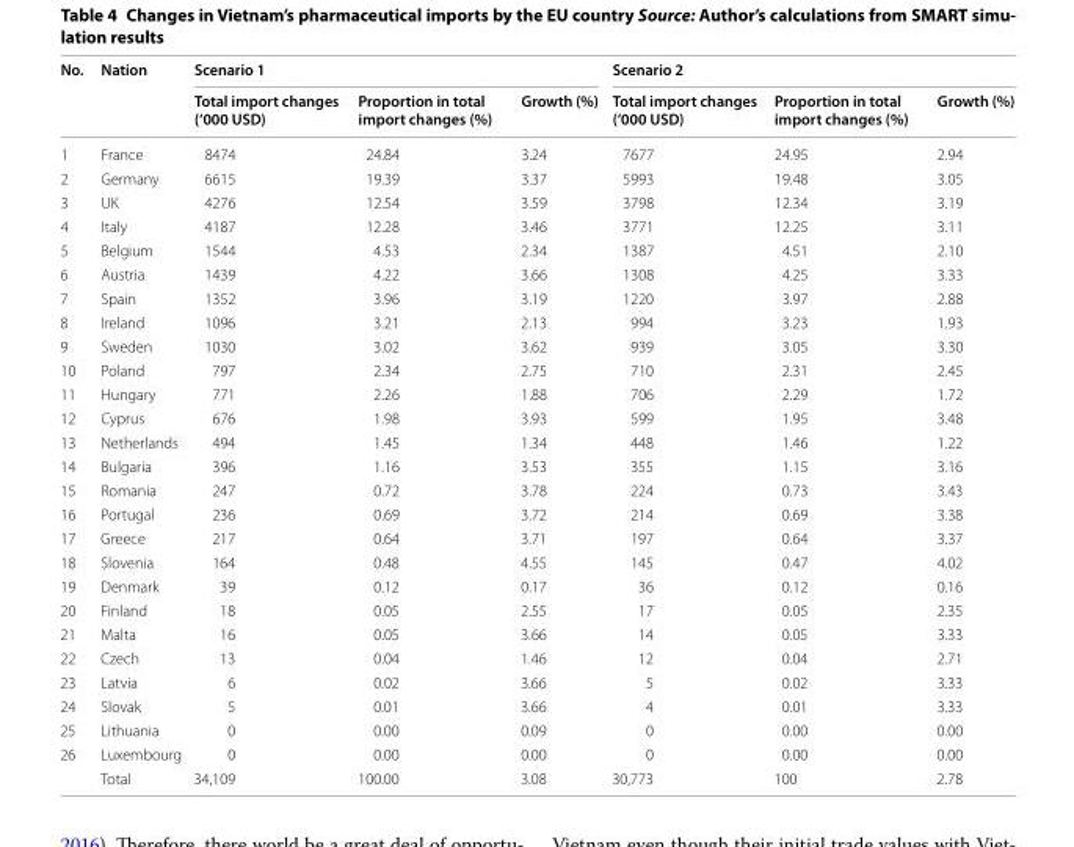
<table><thead><tr><td rowspan="2">No.</td><td rowspan="2">Nation</td><td colspan="3">Scenario 1</td><td colspan="3">Scenario 2</td></tr><tr><td>Total import changes (‘000 USD)</td><td>Proportion in total import changes (%)</td><td>Growth (%)</td><td>Total import changes (‘000 USD)</td><td>Proportion in total import changes (%)</td><td>Growth (%)</td></tr></thead><tbody><tr><td>1</td><td>France</td><td>8474</td><td>24.84</td><td>3.24</td><td>7677</td><td>24.95</td><td>2.94</td></tr><tr><td>2</td><td>Germany</td><td>6615</td><td>19.39</td><td>3.37</td><td>5993</td><td>19.48</td><td>3.05</td></tr><tr><td>3</td><td>UK</td><td>4276</td><td>12.54</td><td>3.59</td><td>3798</td><td>12.34</td><td>3.19</td></tr><tr><td>4</td><td>Italy</td><td>4187</td><td>12.28</td><td>3.46</td><td>3771</td><td>12.25</td><td>3.11</td></tr><tr><td>5</td><td>Belgium</td><td>1544</td><td>4.53</td><td>2.34</td><td>1387</td><td>4.51</td><td>2.10</td></tr><tr><td>6</td><td>Austria</td><td>1439</td><td>4.22</td><td>3.66</td><td>1308</td><td>4.25</td><td>3.33</td></tr><tr><td>7</td><td>Spain</td><td>1352</td><td>3.96</td><td>3.19</td><td>1220</td><td>3.97</td><td>2.88</td></tr><tr><td>8</td><td>Ireland</td><td>1096</td><td>3.21</td><td>2.13</td><td>994</td><td>3.23</td><td>1.93</td></tr><tr><td>9</td><td>Sweden</td><td>1030</td><td>3.02</td><td>3.62</td><td>939</td><td>3.05</td><td>3.30</td></tr><tr><td>10</td><td>Poland</td><td>797</td><td>2.34</td><td>2.75</td><td>710</td><td>2.31</td><td>2.45</td></tr><tr><td>11</td><td>Hungary</td><td>771</td><td>2.26</td><td>1.88</td><td>706</td><td>2.29</td><td>1.72</td></tr><tr><td>12</td><td>Cyprus</td><td>676</td><td>1.98</td><td>3.93</td><td>599</td><td>1.95</td><td>3.48</td></tr><tr><td>13</td><td>Netherlands</td><td>494</td><td>1.45</td><td>1.34</td><td>448</td><td>1.46</td><td>1.22</td></tr><tr><td>14</td><td>Bulgaria</td><td>396</td><td>1.16</td><td>3.53</td><td>355</td><td>1.15</td><td>3.16</td></tr><tr><td>15</td><td>Romania</td><td>247</td><td>0.72</td><td>3.78</td><td>224</td><td>0.73</td><td>3.43</td></tr><tr><td>16</td><td>Portugal</td><td>236</td><td>0.69</td><td>3.72</td><td>214</td><td>0.69</td><td>3.38</td></tr><tr><td>17</td><td>Greece</td><td>217</td><td>0.64</td><td>3.71</td><td>197</td><td>0.64</td><td>3.37</td></tr><tr><td>18</td><td>Slovenia</td><td>164</td><td>0.48</td><td>4.55</td><td>145</td><td>0.47</td><td>4.02</td></tr><tr><td>19</td><td>Denmark</td><td>39</td><td>0.12</td><td>0.17</td><td>36</td><td>0.12</td><td>0.16</td></tr><tr><td>20</td><td>Finland</td><td>18</td><td>0.05</td><td>2.55</td><td>17</td><td>0.05</td><td>2.35</td></tr><tr><td>21</td><td>Malta</td><td>16</td><td>0.05</td><td>3.66</td><td>14</td><td>0.05</td><td>3.33</td></tr><tr><td>22</td><td>Czech</td><td>13</td><td>0.04</td><td>1.46</td><td>12</td><td>0.04</td><td>2.71</td></tr><tr><td>23</td><td>Latvia</td><td>6</td><td>0.02</td><td>3.66</td><td>5</td><td>0.02</td><td>3.33</td></tr><tr><td>24</td><td>Slovak</td><td>5</td><td>0.01</td><td>3.66</td><td>4</td><td>0.01</td><td>3.33</td></tr><tr><td>25</td><td>Lithuania</td><td>0</td><td>0.00</td><td>0.09</td><td>0</td><td>0.00</td><td>0.00</td></tr><tr><td rowspan="2">26</td><td>Luxembourg</td><td>0</td><td>0.00</td><td>0.00</td><td>0</td><td>0.00</td><td>0.00</td></tr><tr><td>Total</td><td>34,109</td><td>100.00</td><td>3.08</td><td>30,773</td><td>100</td><td>2.78</td></tr></tbody></table>